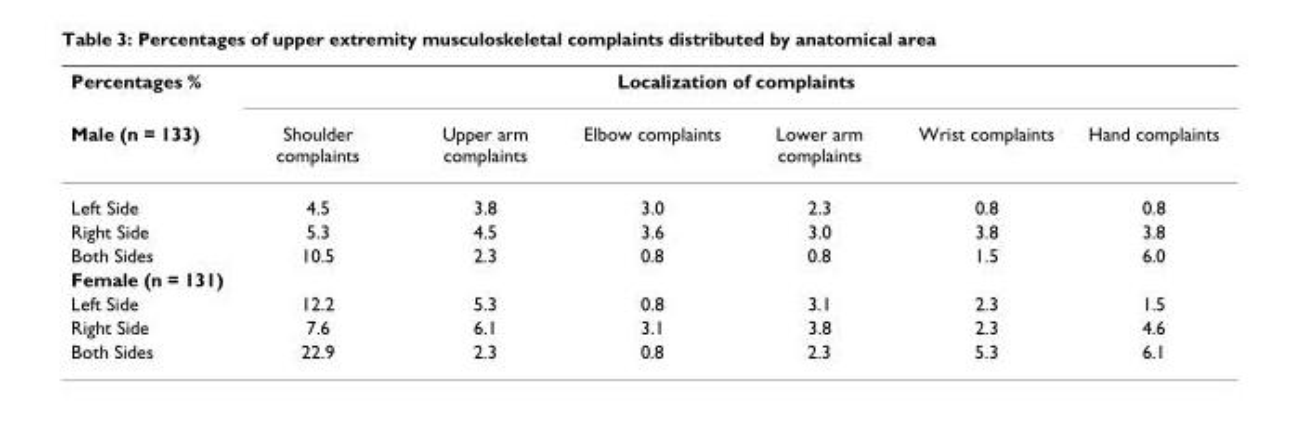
<table><thead><tr><td rowspan="2">Percentages % Male (n = 133)</td><td colspan="6">Localization of complaints</td></tr><tr><td>Shoulder complaints</td><td>Upper arm complaints</td><td>Elbow complaints</td><td>Lower arm complaints</td><td>Wrist complaints</td><td>Hand complaints</td></tr></thead><tbody><tr><td>Left Side</td><td>4.5</td><td>3.8</td><td>3.0</td><td>2.3</td><td>0.8</td><td>0.8</td></tr><tr><td>Right Side</td><td>5.3</td><td>4.5</td><td>3.6</td><td>3.0</td><td>3.8</td><td>3.8</td></tr><tr><td>Both Sides</td><td>10.5</td><td>2.3</td><td>0.8</td><td>0.8</td><td>1.5</td><td>6.0</td></tr><tr><td colspan="7">Female (n = 131)</td></tr><tr><td>Left Side</td><td>12.2</td><td>5.3</td><td>0.8</td><td>3.1</td><td>2.3</td><td>1.5</td></tr><tr><td>Right Side</td><td>7.6</td><td>6.1</td><td>3.1</td><td>3.8</td><td>2.3</td><td>4.6</td></tr><tr><td>Both Sides</td><td>22.9</td><td>2.3</td><td>0.8</td><td>2.3</td><td>5.3</td><td>6.1</td></tr></tbody></table>